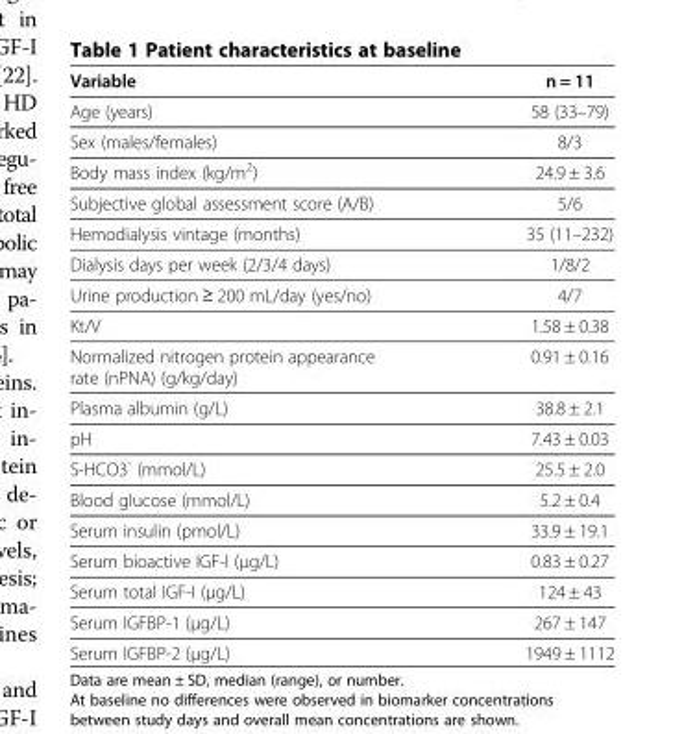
<table><thead><tr><td>Variable</td><td>n = 11</td></tr></thead><tbody><tr><td>Age (years)</td><td>58 (33–79)</td></tr><tr><td>Sex (males/females)</td><td>8/3</td></tr><tr><td>Body mass index (kg/m<sup>2</sup>)</td><td>24.9 ± 3.6</td></tr><tr><td>Subjective global assessment score (A/B)</td><td>5/6</td></tr><tr><td>Hemodialysis vintage (months)</td><td>35 (11–232)</td></tr><tr><td>Dialysis days per week (2/3/4 days)</td><td>1/8/2</td></tr><tr><td>Urine production ≥ 200 mL/day (yes/no)</td><td>4/7</td></tr><tr><td>Kt/V</td><td>1.58 ± 0.38</td></tr><tr><td>Normalized nitrogen protein appearance rate (nPNA) (g/kg/day)</td><td>0.91 ± 0.16</td></tr><tr><td>Plasma albumin (g/L)</td><td>38.8 ± 2.1</td></tr><tr><td>pH</td><td>7.43 ± 0.03</td></tr><tr><td>S-HCO3<sup>-</sup> (mmol/L)</td><td>25.5 ± 2.0</td></tr><tr><td>Blood glucose (mmol/L)</td><td>5.2 ± 0.4</td></tr><tr><td>Serum insulin (pmol/L)</td><td>33.9 ± 19.1</td></tr><tr><td>Serum bioactive IGF-I (μg/L)</td><td>0.83 ± 0.27</td></tr><tr><td>Serum total IGF-I (μg/L)</td><td>124 ± 43</td></tr><tr><td>Serum IGFBP-1 (μg/L)</td><td>267 ± 147</td></tr><tr><td>Serum IGFBP-2 (μg/L)</td><td>1949 ± 1112</td></tr></tbody></table>